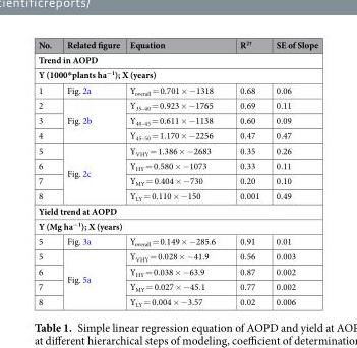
<table><thead><tr><td>No.</td><td>Related figure</td><td>Equation</td><td>R<sup>2†</sup></td><td>SE of Slope</td></tr></thead><tbody><tr><td colspan="5">Trend in AOPD</td></tr><tr><td colspan="5">Y (1000*plants ha<sup>−1</sup>); X (years)</td></tr><tr><td>1</td><td>Fig. 2a</td><td>Y<sub>overall</sub> = 0.701 × −1318</td><td>0.68</td><td>0.06</td></tr><tr><td>2</td><td rowspan="3">Fig. 2b</td><td>Y<sub>35–40</sub> = 0.923 × −1765</td><td>0.69</td><td>0.11</td></tr><tr><td>3</td><td>Y<sub>40–45</sub> = 0.611 × −1138</td><td>0.60</td><td>0.09</td></tr><tr><td>4</td><td>Y<sub>45–50</sub> = 1.170 × −2256</td><td>0.47</td><td>0.47</td></tr><tr><td>5</td><td rowspan="4">Fig. 2c</td><td>Y<sub>VHY</sub> = 1.386 × −2683</td><td>0.35</td><td>0.26</td></tr><tr><td>6</td><td>Y<sub>HY</sub> = 0.580 × −1073</td><td>0.33</td><td>0.11</td></tr><tr><td>7</td><td>Y<sub>MY</sub> = 0.404 × −730</td><td>0.20</td><td>0.10</td></tr><tr><td>8</td><td>Y<sub>LY</sub> = 0.110 × −150</td><td>0.001</td><td>0.49</td></tr><tr><td colspan="5">Yield trend at AOPD</td></tr><tr><td colspan="5">Y (Mg ha<sup>−1</sup>); X (years)</td></tr><tr><td>5</td><td>Fig. 3a</td><td>Y<sub>overall</sub> = 0.149 × −285.6</td><td>0.91</td><td>0.01</td></tr><tr><td>5</td><td rowspan="4">Fig. 5a</td><td>Y<sub>VHY</sub> = 0.028 × −41.9</td><td>0.56</td><td>0.003</td></tr><tr><td>6</td><td>Y<sub>HY</sub> = 0.038 × −63.9</td><td>0.87</td><td>0.002</td></tr><tr><td>7</td><td>Y<sub>MY</sub> = 0.027 × −45.1</td><td>0.77</td><td>0.002</td></tr><tr><td>8</td><td>Y<sub>LY</sub> = 0.004 × −3.57</td><td>0.02</td><td>0.006</td></tr></tbody></table>